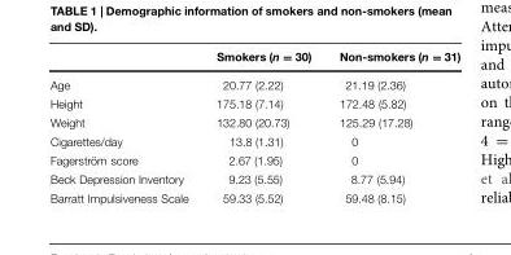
<table><thead><tr><td></td><td>Smokers (n = 30)</td><td>Non-smokers (n = 31)</td></tr></thead><tbody><tr><td>Age</td><td>20.77 (2.22)</td><td>21.19 (2.36)</td></tr><tr><td>Height</td><td>175.18 (7.14)</td><td>172.48 (5.82)</td></tr><tr><td>Weight</td><td>132.80 (20.73)</td><td>125.29 (17.28)</td></tr><tr><td>Cigarettes/day</td><td>13.8 (1.31)</td><td>0</td></tr><tr><td>Fagerström score</td><td>2.67 (1.95)</td><td>0</td></tr><tr><td>Beck Depression Inventory</td><td>9.23 (5.55)</td><td>8.77 (5.94)</td></tr><tr><td>Barratt Impulsiveness Scale</td><td>59.33 (5.52)</td><td>59.48 (8.15)</td></tr></tbody></table>